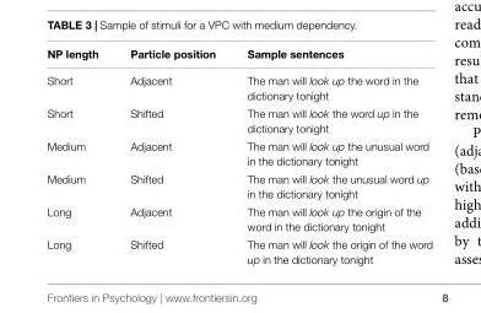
<table><thead><tr><td>NP length</td><td>Particle position</td><td>Sample sentences</td></tr></thead><tbody><tr><td>Short</td><td>Adjacent</td><td>The man will look up the word in the dictionary tonight</td></tr><tr><td>Short</td><td>Shifted</td><td>The man will look the word up in the dictionary tonight</td></tr><tr><td>Medium</td><td>Adjacent</td><td>The man will look up the unusual word in the dictionary tonight</td></tr><tr><td>Medium</td><td>Shifted</td><td>The man will look the unusual word up in the dictionary tonight</td></tr><tr><td>Long</td><td>Adjacent</td><td>The man will look up the origin of the word in the dictionary tonight</td></tr><tr><td>Long</td><td>Shifted</td><td>The man will look the origin of the word up in the dictionary tonight</td></tr></tbody></table>